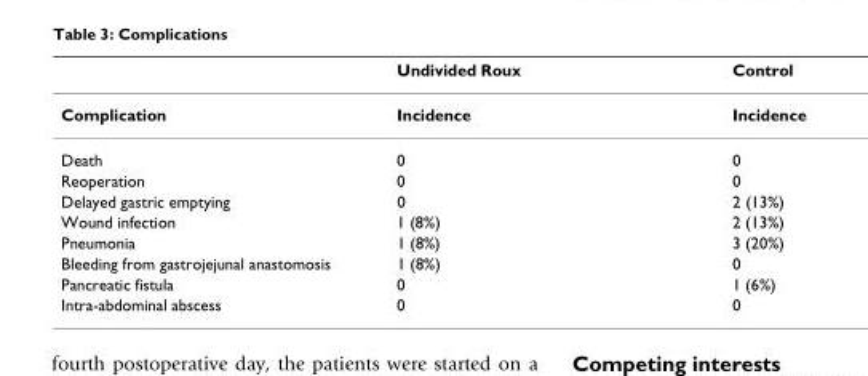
<table><thead><tr><td></td><td>Undivided Roux</td><td>Control</td></tr></thead><tbody><tr><td>Complication</td><td>Incidence</td><td>Incidence</td></tr><tr><td>Death</td><td>0</td><td>0</td></tr><tr><td>Reoperation</td><td>0</td><td>0</td></tr><tr><td>Delayed gastric emptying</td><td>0</td><td>2 (13%)</td></tr><tr><td>Wound infection</td><td>1 (8%)</td><td>2 (13%)</td></tr><tr><td>Pneumonia</td><td>1 (8%)</td><td>3 (20%)</td></tr><tr><td>Bleeding from gastrojejunal anastomosis</td><td>1 (8%)</td><td>0</td></tr><tr><td>Pancreatic fistula</td><td>0</td><td>1 (6%)</td></tr><tr><td>Intra-abdominal abscess</td><td>0</td><td>0</td></tr></tbody></table>